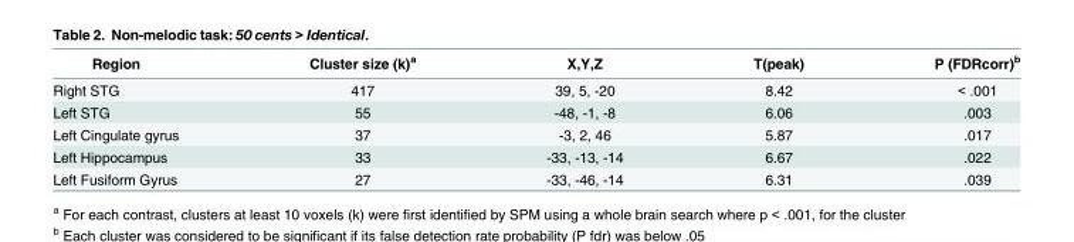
<table><thead><tr><td>Region</td><td>Cluster size (k)<sup>a</sup></td><td>X,Y,Z</td><td>T(peak)</td><td>P (FDRcorr)<sup>b</sup></td></tr></thead><tbody><tr><td>Right STG</td><td>417</td><td>39, 5, -20</td><td>8.42</td><td>&lt; .001</td></tr><tr><td>Left STG</td><td>55</td><td>-48, -1, -8</td><td>6.06</td><td>.003</td></tr><tr><td>Left Cingulate gyrus</td><td>37</td><td>-3, 2, 46</td><td>5.87</td><td>.017</td></tr><tr><td>Left Hippocampus</td><td>33</td><td>-33, -13, -14</td><td>6.67</td><td>.022</td></tr><tr><td>Left Fusiform Gyrus</td><td>27</td><td>-33, -46, -14</td><td>6.31</td><td>.039</td></tr></tbody></table>